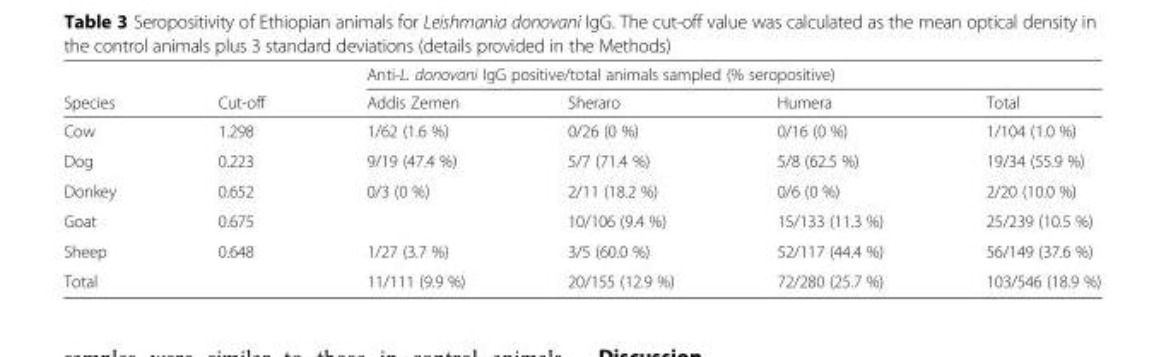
<table><thead><tr><td rowspan="2">Species</td><td rowspan="2">Cut-off</td><td colspan="4">Anti-L. donovani IgG positive/total animals sampled (% seropositive)</td></tr><tr><td>Addis Zemen</td><td>Sheraro</td><td>Humera</td><td>Total</td></tr></thead><tbody><tr><td>Cow</td><td>1.298</td><td>1/62 (1.6 %)</td><td>0/26 (0 %)</td><td>0/16 (0 %)</td><td>1/104 (1.0 %)</td></tr><tr><td>Dog</td><td>0.223</td><td>9/19 (47.4 %)</td><td>5/7 (71.4 %)</td><td>5/8 (62.5 %)</td><td>19/34 (55.9 %)</td></tr><tr><td>Donkey</td><td>0.652</td><td>0/3 (0 %)</td><td>2/11 (18.2 %)</td><td>0/6 (0 %)</td><td>2/20 (10.0 %)</td></tr><tr><td>Goat</td><td>0.675</td><td></td><td>10/106 (9.4 %)</td><td>15/133 (11.3 %)</td><td>25/239 (10.5 %)</td></tr><tr><td>Sheep</td><td>0.648</td><td>1/27 (3.7 %)</td><td>3/5 (60.0 %)</td><td>52/117 (44.4 %)</td><td>56/149 (37.6 %)</td></tr><tr><td>Total</td><td></td><td>11/111 (9.9 %)</td><td>20/155 (12.9 %)</td><td>72/280 (25.7 %)</td><td>103/546 (18.9 %)</td></tr></tbody></table>